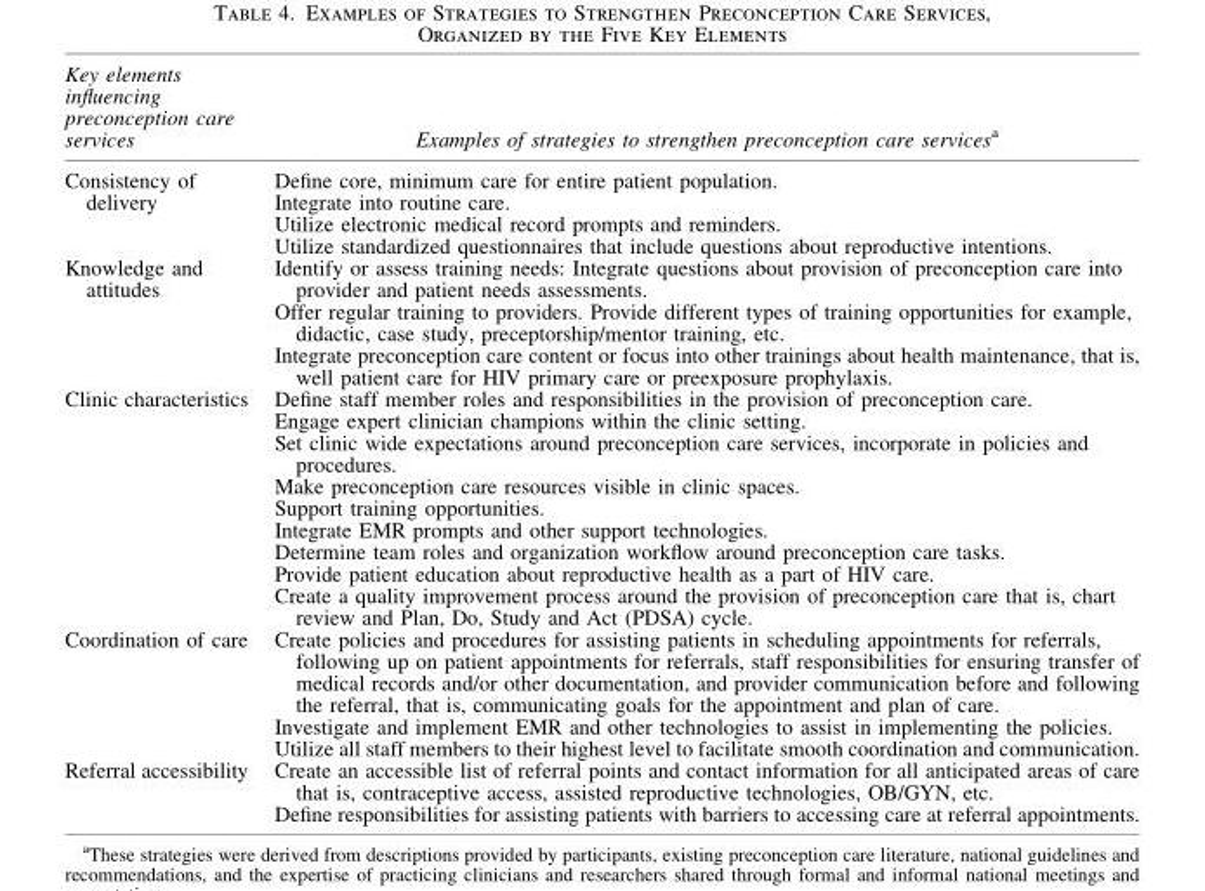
<table><thead><tr><td>Key elements influencing preconception care services</td><td>Examples of strategies to strengthen preconception care services<sup>a</sup></td></tr></thead><tbody><tr><td rowspan="4">Consistency of delivery</td><td>Define core, minimum care for entire patient population.</td></tr><tr><td>Integrate into routine care.</td></tr><tr><td>Utilize electronic medical record prompts and reminders.</td></tr><tr><td>Utilize standardized questionnaires that include questions about reproductive intentions.</td></tr><tr><td rowspan="3">Knowledge and attitudes</td><td>Identify or assess training needs: Integrate questions about provision of preconception care into provider and patient needs assessments.</td></tr><tr><td>Offer regular training to providers. Provide different types of training opportunities for example, didactic, case study, preceptorship/mentor training, etc.</td></tr><tr><td>Integrate preconception care content or focus into other trainings about health maintenance, that is, well patient care for HIV primary care or preexposure prophylaxis.</td></tr><tr><td rowspan="9">Clinic characteristics</td><td>Define staff member roles and responsibilities in the provision of preconception care.</td></tr><tr><td>Engage expert clinician champions within the clinic setting.</td></tr><tr><td>Set clinic wide expectations around preconception care services, incorporate in policies and procedures.</td></tr><tr><td>Make preconception care resources visible in clinic spaces.</td></tr><tr><td>Support training opportunities.</td></tr><tr><td>Integrate EMR prompts and other support technologies.</td></tr><tr><td>Determine team roles and organization workflow around preconception care tasks.</td></tr><tr><td>Provide patient education about reproductive health as a part of HIV care.</td></tr><tr><td>Create a quality improvement process around the provision of preconception care that is, chart review and Plan, Do, Study and Act (PDSA) cycle.</td></tr><tr><td rowspan="3">Coordination of care</td><td>Create policies and procedures for assisting patients in scheduling appointments for referrals, following up on patient appointments for referrals, staff responsibilities for ensuring transfer of medical records and/or other documentation, and provider communication before and following the referral, that is, communicating goals for the appointment and plan of care.</td></tr><tr><td>Investigate and implement EMR and other technologies to assist in implementing the policies.</td></tr><tr><td>Utilize all staff members to their highest level to facilitate smooth coordination and communication.</td></tr><tr><td rowspan="2">Referral accessibility</td><td>Create an accessible list of referral points and contact information for all anticipated areas of care that is, contraceptive access, assisted reproductive technologies, OB/GYN, etc.</td></tr><tr><td>Define responsibilities for assisting patients with barriers to accessing care at referral appointments.</td></tr></tbody></table>